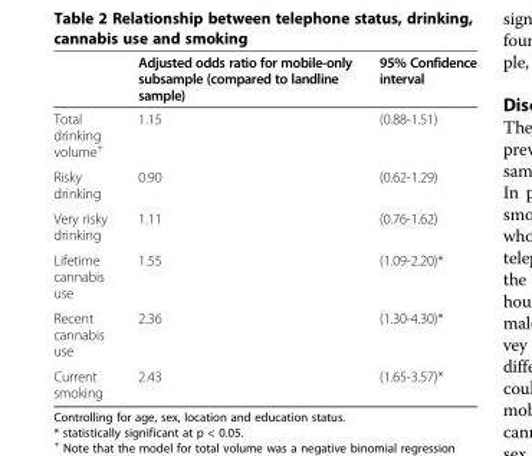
<table><thead><tr><td></td><td>Adjusted odds ratio for mobile-only subsample (compared to landline sample)</td><td>95% Confidence interval</td></tr></thead><tbody><tr><td>Total drinking volume<sup>+</sup></td><td>1.15</td><td>(0.88-1.51)</td></tr><tr><td>Risky drinking</td><td>0.90</td><td>(0.62-1.29)</td></tr><tr><td>Very risky drinking</td><td>1.11</td><td>(0.76-1.62)</td></tr><tr><td>Lifetime cannabis use</td><td>1.55</td><td>(1.09-2.20)*</td></tr><tr><td>Recent cannabis use</td><td>2.36</td><td>(1.30-4.30)*</td></tr><tr><td>Current smoking</td><td>2.43</td><td>(1.65-3.57)*</td></tr></tbody></table>